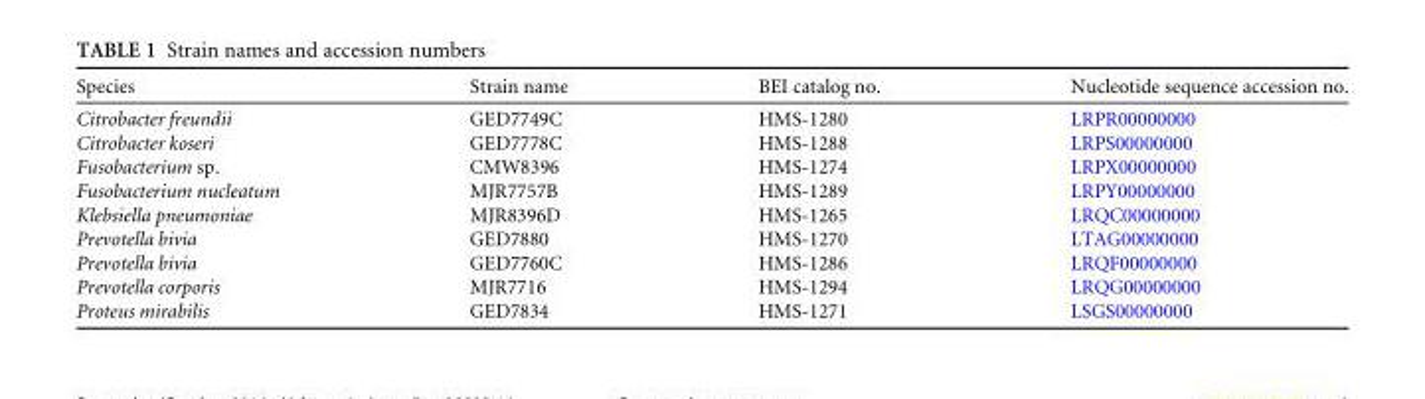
<table><thead><tr><td>Species</td><td>Strain name</td><td>BEI catalog no.</td><td>Nucleotide sequence accession no.</td></tr></thead><tbody><tr><td>Citrobacter freundii</td><td>GED7749C</td><td>HMS-1280</td><td>LRPR00000000</td></tr><tr><td>Citrobacter koseri</td><td>GED7778C</td><td>HMS-1288</td><td>LRPS00000000</td></tr><tr><td>Fusobacterium sp.</td><td>CMW8396</td><td>HMS-1274</td><td>LRPX00000000</td></tr><tr><td>Fusobacterium nucleatum</td><td>MJR7757B</td><td>HMS-1289</td><td>LRPY00000000</td></tr><tr><td>Klebsiella pneumoniae</td><td>MJR8396D</td><td>HMS-1265</td><td>LRQC00000000</td></tr><tr><td>Prevotella bivia</td><td>GED7880</td><td>HMS-1270</td><td>LTAG00000000</td></tr><tr><td>Prevotella bivia</td><td>GED7760C</td><td>HMS-1286</td><td>LRQF00000000</td></tr><tr><td>Prevotella corporis</td><td>MJR7716</td><td>HMS-1294</td><td>LRQG00000000</td></tr><tr><td>Proteus mirabilis</td><td>GED7834</td><td>HMS-1271</td><td>LSGS00000000</td></tr></tbody></table>